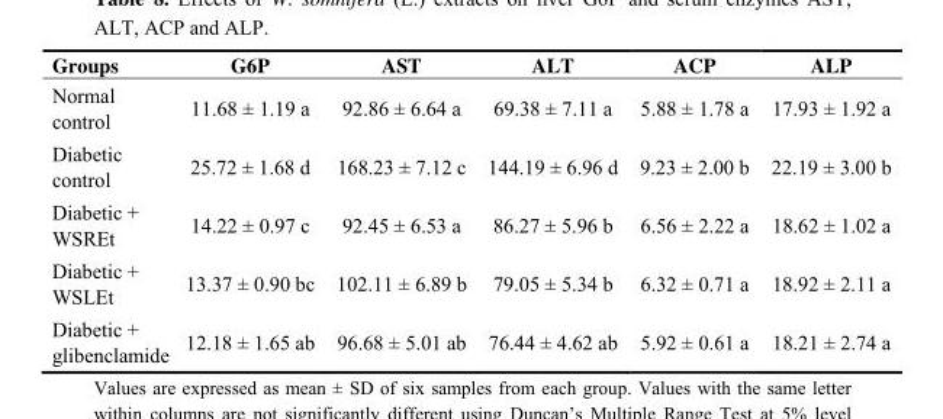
<table><thead><tr><td>Groups</td><td>G6P</td><td>AST</td><td>ALT</td><td>ACP</td><td>ALP</td></tr></thead><tbody><tr><td>Normal control</td><td>11.68 ± 1.19 a</td><td>92.86 ± 6.64 a</td><td>69.38 ± 7.11 a</td><td>5.88 ± 1.78 a</td><td>17.93 ± 1.92 a</td></tr><tr><td>Diabetic control</td><td>25.72 ± 1.68 d</td><td>168.23 ± 7.12 c</td><td>144.19 ± 6.96 d</td><td>9.23 ± 2.00 b</td><td>22.19 ± 3.00 b</td></tr><tr><td>Diabetic + WSREt</td><td>14.22 ± 0.97 c</td><td>92.45 ± 6.53 a</td><td>86.27 ± 5.96 b</td><td>6.56 ± 2.22 a</td><td>18.62 ± 1.02 a</td></tr><tr><td>Diabetic + WSLEt</td><td>13.37 ± 0.90 bc</td><td>102.11 ± 6.89 b</td><td>79.05 ± 5.34 b</td><td>6.32 ± 0.71 a</td><td>18.92 ± 2.11 a</td></tr><tr><td>Diabetic + glibenclamide</td><td>12.18 ± 1.65 ab</td><td>96.68 ± 5.01 ab</td><td>76.44 ± 4.62 ab</td><td>5.92 ± 0.61 a</td><td>18.21 ± 2.74 a</td></tr></tbody></table>